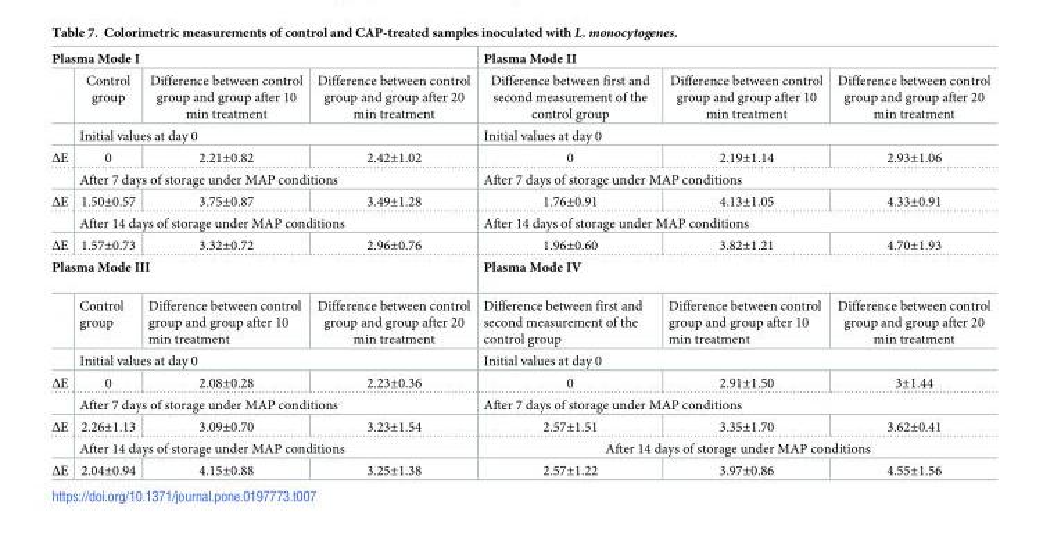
<table><tbody><tr><td colspan="4">Plasma Mode I</td><td colspan="3">Plasma Mode II</td></tr><tr><td></td><td>Control group</td><td>Difference between control group and group after 10 min treatment</td><td>Difference between control group and group after 20 min treatment</td><td>Difference between first and second measurement of the control group</td><td>Difference between control group and group after 10 min treatment</td><td>Difference between control group and group after 20 min treatment</td></tr><tr><td></td><td colspan="3">Initial values at day 0</td><td colspan="3">Initial values at day 0</td></tr><tr><td rowspan="2">ΔE</td><td>0</td><td>2.21±0.82</td><td>2.42±1.02</td><td>0</td><td>2.19±1.14</td><td>2.93±1.06</td></tr><tr><td colspan="3">After 7 days of storage under MAP conditions</td><td colspan="3">After 7 days of storage under MAP conditions</td></tr><tr><td rowspan="2">ΔE</td><td>1.50±0.57</td><td>3.75±0.87</td><td>3.49±1.28</td><td>1.76±0.91</td><td>4.13±1.05</td><td>4.33±0.91</td></tr><tr><td colspan="3">After 14 days of storage under MAP conditions</td><td colspan="3">After 14 days of storage under MAP conditions</td></tr><tr><td>ΔE</td><td>1.57±0.73</td><td>3.32±0.72</td><td>2.96±0.76</td><td>1.96±0.60</td><td>3.82±1.21</td><td>4.70±1.93</td></tr><tr><td colspan="4">Plasma Mode III</td><td colspan="3">Plasma Mode IV</td></tr><tr><td></td><td>Control group</td><td>Difference between control group and group after 10 min treatment</td><td>Difference between control group and group after 20 min treatment</td><td>Difference between first and second measurement of the control group</td><td>Difference between control group and group after 10 min treatment</td><td>Difference between control group and group after 20 min treatment</td></tr><tr><td></td><td colspan="3">Initial values at day 0</td><td colspan="3">Initial values at day 0</td></tr><tr><td rowspan="2">ΔE</td><td>0</td><td>2.08±0.28</td><td>2.23±0.36</td><td>0</td><td>2.91±1.50</td><td>3±1.44</td></tr><tr><td colspan="3">After 7 days of storage under MAP conditions</td><td colspan="3">After 7 days of storage under MAP conditions</td></tr><tr><td rowspan="2">ΔE</td><td>2.26±1.13</td><td>3.09±0.70</td><td>3.23±1.54</td><td>2.57±1.51</td><td>3.35±1.70</td><td>3.62±0.41</td></tr><tr><td colspan="3">After 14 days of storage under MAP conditions</td><td colspan="3">After 14 days of storage under MAP conditions</td></tr><tr><td>ΔE</td><td>2.04±0.94</td><td>4.15±0.88</td><td>3.25±1.38</td><td>2.57±1.22</td><td>3.97±0.86</td><td>4.55±1.56</td></tr></tbody></table>